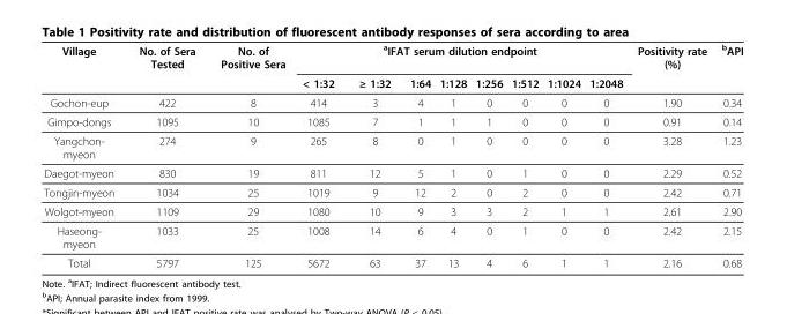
<table><thead><tr><td rowspan="2">Village</td><td rowspan="2">No. of Sera Tested</td><td rowspan="2">No. of Positive Sera</td><td colspan="8"><sup>a</sup>IFAT serum dilution endpoint</td><td rowspan="2">Positivity rate (%)</td><td rowspan="2"><sup>b</sup>API</td></tr><tr><td>&lt; 1:32</td><td>≥ 1:32</td><td>1:64</td><td>1:128</td><td>1:256</td><td>1:512</td><td>1:1024</td><td>1:2048</td></tr></thead><tbody><tr><td>Gochon-eup</td><td>422</td><td>8</td><td>414</td><td>3</td><td>4</td><td>1</td><td>0</td><td>0</td><td>0</td><td>0</td><td>1.90</td><td>0.34</td></tr><tr><td>Gimpo-dongs</td><td>1095</td><td>10</td><td>1085</td><td>7</td><td>1</td><td>1</td><td>1</td><td>0</td><td>0</td><td>0</td><td>0.91</td><td>0.14</td></tr><tr><td>Yangchon- myeon</td><td>274</td><td>9</td><td>265</td><td>8</td><td>0</td><td>1</td><td>0</td><td>0</td><td>0</td><td>0</td><td>3.28</td><td>1.23</td></tr><tr><td>Daegot-myeon</td><td>830</td><td>19</td><td>811</td><td>12</td><td>5</td><td>1</td><td>0</td><td>1</td><td>0</td><td>0</td><td>2.29</td><td>0.52</td></tr><tr><td>Tongjin-myeon</td><td>1034</td><td>25</td><td>1019</td><td>9</td><td>12</td><td>2</td><td>0</td><td>2</td><td>0</td><td>0</td><td>2.42</td><td>0.71</td></tr><tr><td>Wolgot-myeon</td><td>1109</td><td>29</td><td>1080</td><td>10</td><td>9</td><td>3</td><td>3</td><td>2</td><td>1</td><td>1</td><td>2.61</td><td>2.90</td></tr><tr><td>Haseong- myeon</td><td>1033</td><td>25</td><td>1008</td><td>14</td><td>6</td><td>4</td><td>0</td><td>1</td><td>0</td><td>0</td><td>2.42</td><td>2.15</td></tr><tr><td>Total</td><td>5797</td><td>125</td><td>5672</td><td>63</td><td>37</td><td>13</td><td>4</td><td>6</td><td>1</td><td>1</td><td>2.16</td><td>0.68</td></tr></tbody></table>